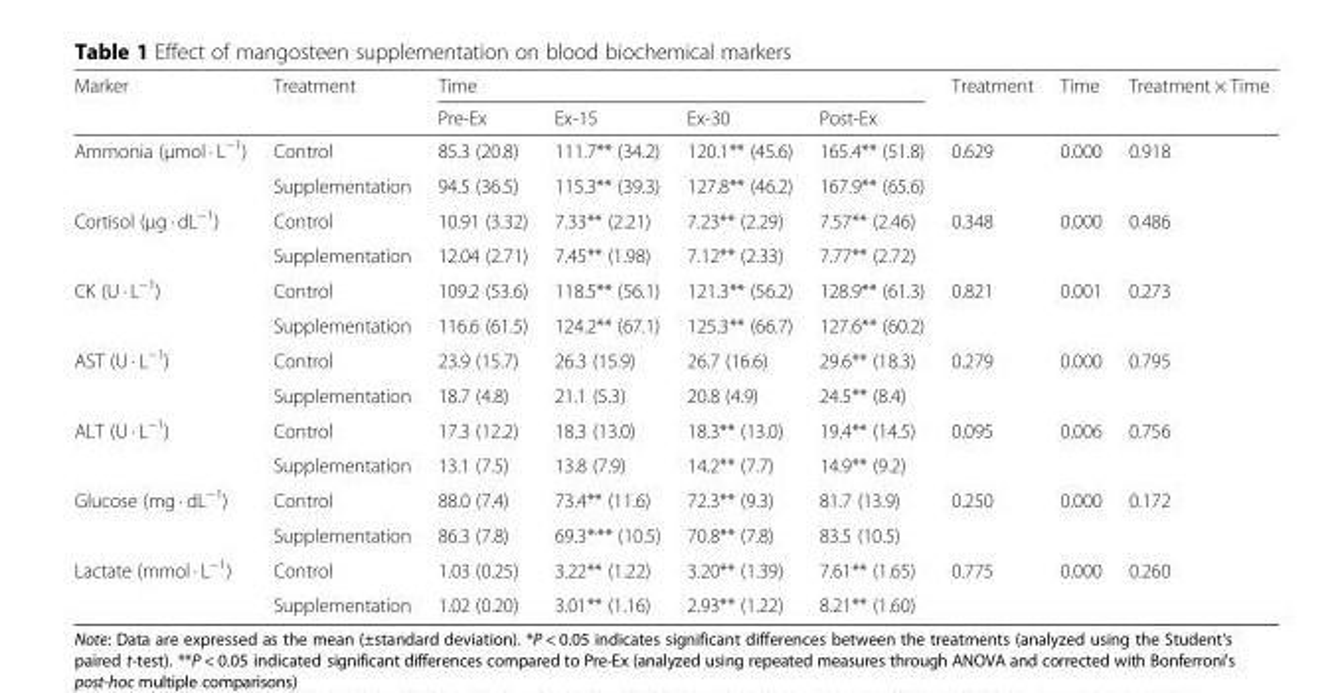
<table><thead><tr><td rowspan="2">Marker</td><td rowspan="2">Treatment</td><td colspan="4">Time</td><td rowspan="2">Treatment</td><td rowspan="2">Time</td><td rowspan="2">Treatment × Time</td></tr><tr><td>Pre-Ex</td><td>Ex-15</td><td>Ex-30</td><td>Post-Ex</td></tr></thead><tbody><tr><td rowspan="2">Ammonia (μmol · L<sup>−1</sup>)</td><td>Control</td><td>85.3 (20.8)</td><td>111.7** (34.2)</td><td>120.1** (45.6)</td><td>165.4** (51.8)</td><td rowspan="2">0.629</td><td rowspan="2">0.000</td><td rowspan="2">0.918</td></tr><tr><td>Supplementation</td><td>94.5 (36.5)</td><td>115.3** (39.3)</td><td>127.8** (46.2)</td><td>167.9** (65.6)</td></tr><tr><td rowspan="2">Cortisol (μg · dL<sup>−1</sup>)</td><td>Control</td><td>10.91 (3.32)</td><td>7.33** (2.21)</td><td>7.23** (2.29)</td><td>7.57** (2.46)</td><td rowspan="2">0.348</td><td rowspan="2">0.000</td><td rowspan="2">0.486</td></tr><tr><td>Supplementation</td><td>12.04 (2.71)</td><td>7.45** (1.98)</td><td>7.12** (2.33)</td><td>7.77** (2.72)</td></tr><tr><td rowspan="2">CK (U · L<sup>−1</sup>)</td><td>Control</td><td>109.2 (53.6)</td><td>118.5** (56.1)</td><td>121.3** (56.2)</td><td>128.9** (61.3)</td><td rowspan="2">0.821</td><td rowspan="2">0.001</td><td rowspan="2">0.273</td></tr><tr><td>Supplementation</td><td>116.6 (61.5)</td><td>124.2** (67.1)</td><td>125.3** (66.7)</td><td>127.6** (60.2)</td></tr><tr><td rowspan="2">AST (U · L<sup>−1</sup>)</td><td>Control</td><td>23.9 (15.7)</td><td>26.3 (15.9)</td><td>26.7 (16.6)</td><td>29.6** (18.3)</td><td rowspan="2">0.279</td><td rowspan="2">0.000</td><td rowspan="2">0.795</td></tr><tr><td>Supplementation</td><td>18.7 (4.8)</td><td>21.1 (5.3)</td><td>20.8 (4.9)</td><td>24.5** (8.4)</td></tr><tr><td rowspan="2">ALT (U · L<sup>−1</sup>)</td><td>Control</td><td>17.3 (12.2)</td><td>18.3 (13.0)</td><td>18.3** (13.0)</td><td>19.4** (14.5)</td><td rowspan="2">0.095</td><td rowspan="2">0.006</td><td rowspan="2">0.756</td></tr><tr><td>Supplementation</td><td>13.1 (7.5)</td><td>13.8 (7.9)</td><td>14.2** (7.7)</td><td>14.9** (9.2)</td></tr><tr><td rowspan="2">Glucose (mg · dL<sup>−1</sup>)</td><td>Control</td><td>88.0 (7.4)</td><td>73.4** (11.6)</td><td>72.3** (9.3)</td><td>81.7 (13.9)</td><td rowspan="2">0.250</td><td rowspan="2">0.000</td><td rowspan="2">0.172</td></tr><tr><td>Supplementation</td><td>86.3 (7.8)</td><td>69.3*<sup>,</sup>** (10.5)</td><td>70.8** (7.8)</td><td>83.5 (10.5)</td></tr><tr><td rowspan="2">Lactate (mmol · L<sup>−1</sup>)</td><td>Control</td><td>1.03 (0.25)</td><td>3.22** (1.22)</td><td>3.20** (1.39)</td><td>7.61** (1.65)</td><td rowspan="2">0.775</td><td rowspan="2">0.000</td><td rowspan="2">0.260</td></tr><tr><td>Supplementation</td><td>1.02 (0.20)</td><td>3.01** (1.16)</td><td>2.93** (1.22)</td><td>8.21** (1.60)</td></tr></tbody></table>